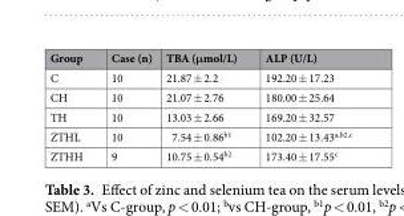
<table><thead><tr><td>Group</td><td>Case (n)</td><td>TBA (μmol/L)</td><td>ALP (U/L)</td></tr></thead><tbody><tr><td>C</td><td>10</td><td>21.87 ± 2.2</td><td>192.20 ± 17.23</td></tr><tr><td>CH</td><td>10</td><td>21.07 ± 2.76</td><td>180.00 ± 25.64</td></tr><tr><td>TH</td><td>10</td><td>13.03 ± 2.66</td><td>169.20 ± 32.57</td></tr><tr><td>ZTHL</td><td>10</td><td>7.54 ± 0.86<sup>b1</sup></td><td>102.20 ± 13.43<sup>a,b2,c</sup></td></tr><tr><td>ZTHH</td><td>9</td><td>10.75 ± 0.54<sup>b2</sup></td><td>173.40 ± 17.55<sup>c</sup></td></tr></tbody></table>